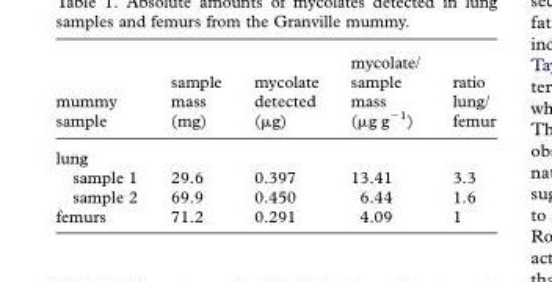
<table><thead><tr><td>mummy sample</td><td>sample mass (mg)</td><td>mycolate detected (µg)</td><td>mycolate/ sample mass (µg g<sup>−1</sup>)</td><td>ratio lung/ femur</td></tr></thead><tbody><tr><td colspan="5">lung</td></tr><tr><td>sample 1</td><td>29.6</td><td>0.397</td><td>13.41</td><td>3.3</td></tr><tr><td>sample 2</td><td>69.9</td><td>0.450</td><td>6.44</td><td>1.6</td></tr><tr><td>femurs</td><td>71.2</td><td>0.291</td><td>4.09</td><td>1</td></tr></tbody></table>